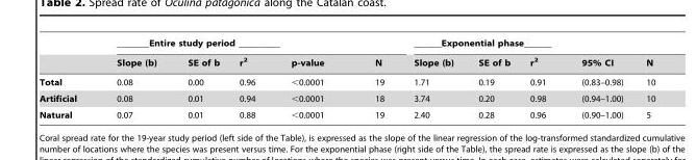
<table><thead><tr><td rowspan="2"></td><td colspan="5">_______Entire study period _________</td><td colspan="5">______Exponential phase______</td></tr><tr><td>Slope (b)</td><td>SE of b</td><td>r<sup>2</sup></td><td>p-value</td><td>N</td><td>Slope (b)</td><td>SE of b</td><td>r<sup>2</sup></td><td>95% CI</td><td>N</td></tr></thead><tbody><tr><td>Total</td><td>0.08</td><td>0.00</td><td>0.96</td><td>&lt;0.0001</td><td>19</td><td>1.71</td><td>0.19</td><td>0.91</td><td>(0.83–0.98)</td><td>10</td></tr><tr><td>Artificial</td><td>0.08</td><td>0.01</td><td>0.94</td><td>&lt;0.0001</td><td>18</td><td>3.74</td><td>0.20</td><td>0.98</td><td>(0.94–1.00)</td><td>10</td></tr><tr><td>Natural</td><td>0.07</td><td>0.01</td><td>0.88</td><td>&lt;0.0001</td><td>19</td><td>2.40</td><td>0.28</td><td>0.96</td><td>(0.90–1.00)</td><td>5</td></tr></tbody></table>